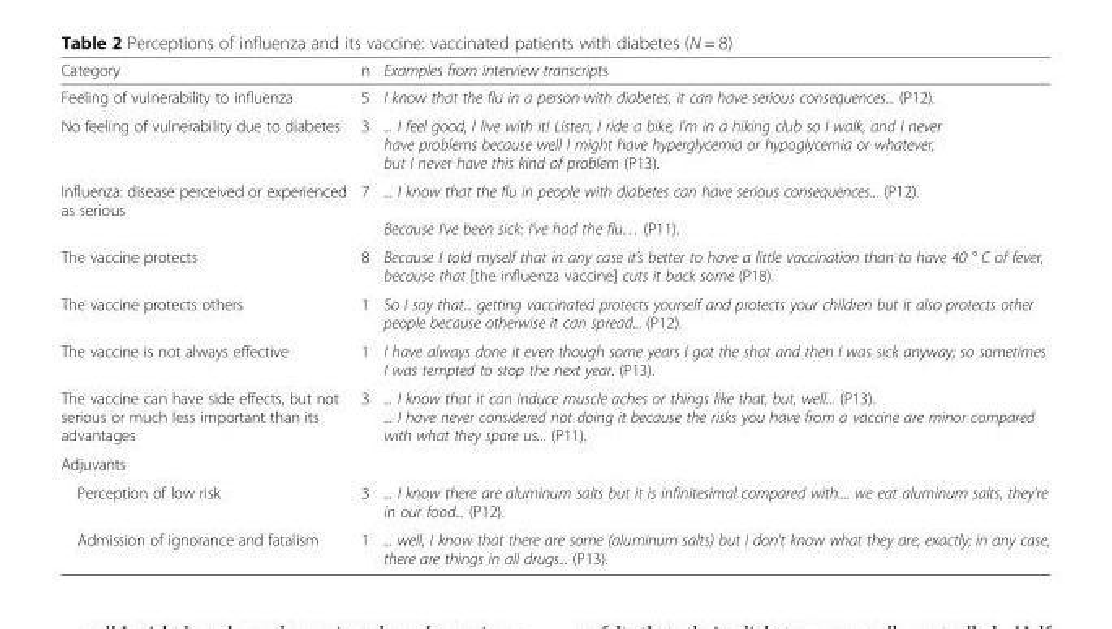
<table><thead><tr><td>Category</td><td>n</td><td>Examples from interview transcripts</td></tr></thead><tbody><tr><td>Feeling of vulnerability to influenza</td><td>5</td><td>I know that the flu in a person with diabetes, it can have serious consequences... (P12).</td></tr><tr><td>No feeling of vulnerability due to diabetes</td><td>3</td><td>... I feel good, I live with it! Listen, I ride a bike, I’m in a hiking club so I walk, and I never have problems because well I might have hyperglycemia or hypoglycemia or whatever, but I never have this kind of problem (P13).</td></tr><tr><td>Influenza: disease perceived or experienced as serious</td><td>7</td><td>... I know that the flu in people with diabetes can have serious consequences... (P12). Because I’ve been sick: I’ve had the flu… (P11).</td></tr><tr><td>The vaccine protects</td><td>8</td><td>Because I told myself that in any case it’s better to have a little vaccination than to have 40 ° C of fever, because that [the influenza vaccine] cuts it back some (P18).</td></tr><tr><td>The vaccine protects others</td><td>1</td><td>So I say that... getting vaccinated protects yourself and protects your children but it also protects other people because otherwise it can spread... (P12).</td></tr><tr><td>The vaccine is not always effective</td><td>1</td><td>I have always done it even though some years I got the shot and then I was sick anyway; so sometimes I was tempted to stop the next year. (P13).</td></tr><tr><td>The vaccine can have side effects, but not serious or much less important than its advantages</td><td>3</td><td>... I know that it can induce muscle aches or things like that, but, well... (P13). ... I have never considered not doing it because the risks you have from a vaccine are minor compared with what they spare us... (P11).</td></tr><tr><td colspan="3">Adjuvants</td></tr><tr><td>Perception of low risk</td><td>3</td><td>... I know there are aluminum salts but it is infinitesimal compared with.... we eat aluminum salts, they’re in our food... (P12).</td></tr><tr><td>Admission of ignorance and fatalism</td><td>1</td><td>... well, I know that there are some (aluminum salts) but I don’t know what they are, exactly; in any case, there are things in all drugs... (P13).</td></tr></tbody></table>